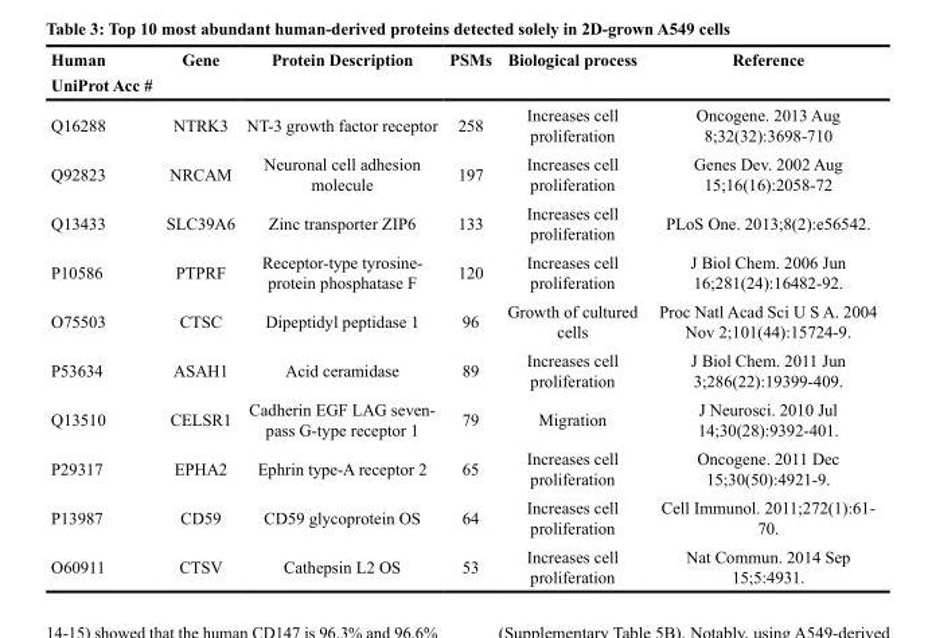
<table><thead><tr><td>Human UniProt Acc #</td><td>Gene</td><td>Protein Description</td><td>PSMs</td><td>Biological process</td><td>Reference</td></tr></thead><tbody><tr><td>Q16288</td><td>NTRK3</td><td>NT-3 growth factor receptor</td><td>258</td><td>Increases cell proliferation</td><td>Oncogene. 2013 Aug 8;32(32):3698-710</td></tr><tr><td>Q92823</td><td>NRCAM</td><td>Neuronal cell adhesion molecule</td><td>197</td><td>Increases cell proliferation</td><td>Genes Dev. 2002 Aug 15;16(16):2058-72</td></tr><tr><td>Q13433</td><td>SLC39A6</td><td>Zinc transporter ZIP6</td><td>133</td><td>Increases cell proliferation</td><td>PLoS One. 2013;8(2):e56542.</td></tr><tr><td>P10586</td><td>PTPRF</td><td>Receptor-type tyrosine- protein phosphatase F</td><td>120</td><td>Increases cell proliferation</td><td>J Biol Chem. 2006 Jun 16;281(24):16482-92.</td></tr><tr><td>O75503</td><td>CTSC</td><td>Dipeptidyl peptidase 1</td><td>96</td><td>Growth of cultured cells</td><td>Proc Natl Acad Sci U S A. 2004 Nov 2;101(44):15724-9.</td></tr><tr><td>P53634</td><td>ASAH1</td><td>Acid ceramidase</td><td>89</td><td>Increases cell proliferation</td><td>J Biol Chem. 2011 Jun 3;286(22):19399-409.</td></tr><tr><td>Q13510</td><td>CELSR1</td><td>Cadherin EGF LAG seven- pass G-type receptor 1</td><td>79</td><td>Migration</td><td>J Neurosci. 2010 Jul 14;30(28):9392-401.</td></tr><tr><td>P29317</td><td>EPHA2</td><td>Ephrin type-A receptor 2</td><td>65</td><td>Increases cell proliferation</td><td>Oncogene. 2011 Dec 15;30(50):4921-9.</td></tr><tr><td>P13987</td><td>CD59</td><td>CD59 glycoprotein OS</td><td>64</td><td>Increases cell proliferation</td><td>Cell Immunol. 2011;272(1):61- 70.</td></tr><tr><td>O60911</td><td>CTSV</td><td>Cathepsin L2 OS</td><td>53</td><td>Increases cell proliferation</td><td>Nat Commun. 2014 Sep 15;5:4931.</td></tr></tbody></table>